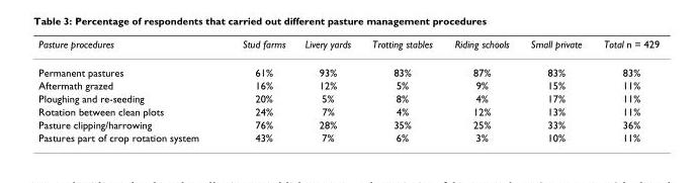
<table><thead><tr><td>Pasture procedures</td><td>Stud farms</td><td>Livery yards</td><td>Trotting stables</td><td>Riding schools</td><td>Small private</td><td>Total n = 429</td></tr></thead><tbody><tr><td>Permanent pastures</td><td>61%</td><td>93%</td><td>83%</td><td>87%</td><td>83%</td><td>83%</td></tr><tr><td>Aftermath grazed</td><td>16%</td><td>12%</td><td>5%</td><td>9%</td><td>15%</td><td>11%</td></tr><tr><td>Ploughing and re-seeding</td><td>20%</td><td>5%</td><td>8%</td><td>4%</td><td>17%</td><td>11%</td></tr><tr><td>Rotation between clean plots</td><td>24%</td><td>7%</td><td>4%</td><td>12%</td><td>13%</td><td>11%</td></tr><tr><td>Pasture clipping/harrowing</td><td>76%</td><td>28%</td><td>35%</td><td>25%</td><td>33%</td><td>36%</td></tr><tr><td>Pastures part of crop rotation system</td><td>43%</td><td>7%</td><td>6%</td><td>3%</td><td>10%</td><td>11%</td></tr></tbody></table>